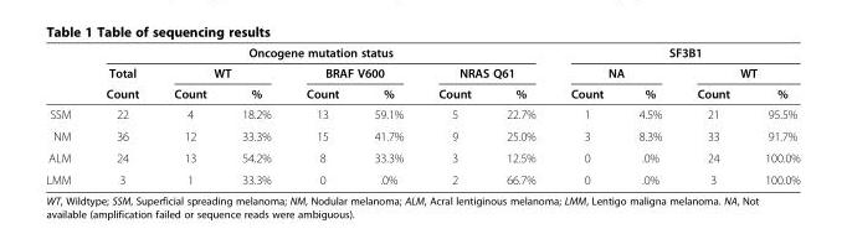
<table><thead><tr><td rowspan="3"></td><td colspan="7">Oncogene mutation status</td><td colspan="4">SF3B1</td></tr><tr><td rowspan="2">Total Count</td><td colspan="2">WT</td><td colspan="2">BRAF V600</td><td colspan="2">NRAS Q61</td><td colspan="2">NA</td><td colspan="2">WT</td></tr><tr><td>Count</td><td>%</td><td>Count</td><td>%</td><td>Count</td><td>%</td><td>Count</td><td>%</td><td>Count</td><td>%</td></tr></thead><tbody><tr><td>SSM</td><td>22</td><td>4</td><td>18.2%</td><td>13</td><td>59.1%</td><td>5</td><td>22.7%</td><td>1</td><td>4.5%</td><td>21</td><td>95.5%</td></tr><tr><td>NM</td><td>36</td><td>12</td><td>33.3%</td><td>15</td><td>41.7%</td><td>9</td><td>25.0%</td><td>3</td><td>8.3%</td><td>33</td><td>91.7%</td></tr><tr><td>ALM</td><td>24</td><td>13</td><td>54.2%</td><td>8</td><td>33.3%</td><td>3</td><td>12.5%</td><td>0</td><td>.0%</td><td>24</td><td>100.0%</td></tr><tr><td>LMM</td><td>3</td><td>1</td><td>33.3%</td><td>0</td><td>.0%</td><td>2</td><td>66.7%</td><td>0</td><td>.0%</td><td>3</td><td>100.0%</td></tr></tbody></table>